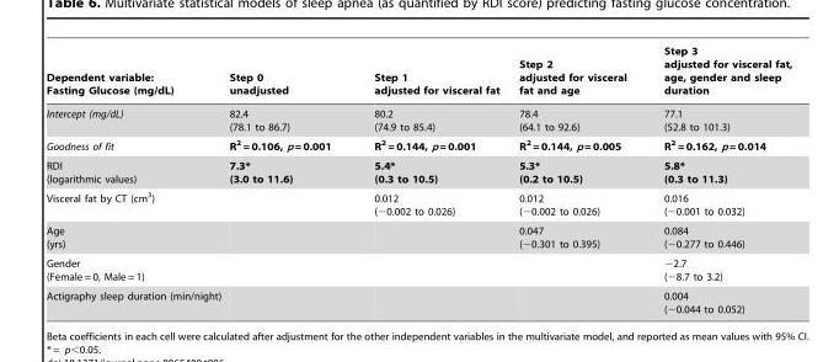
<table><thead><tr><td>Dependent variable: Fasting Glucose (mg/dL)</td><td>Step 0 unadjusted</td><td>Step 1 adjusted for visceral fat</td><td>Step 2 adjusted for visceral fat and age</td><td>Step 3 adjusted for visceral fat, age, gender and sleep duration</td></tr></thead><tbody><tr><td>Intercept (mg/dL)</td><td>82.4 (78.1 to 86.7)</td><td>80.2 (74.9 to 85.4)</td><td>78.4 (64.1 to 92.6)</td><td>77.1 (52.8 to 101.3)</td></tr><tr><td>Goodness of fit</td><td>R<sup>2</sup> = 0.106, p = 0.001</td><td>R<sup>2</sup> = 0.144, p = 0.001</td><td>R<sup>2</sup> = 0.144, p = 0.005</td><td>R<sup>2</sup> = 0.162, p = 0.014</td></tr><tr><td>RDI (logarithmic values)</td><td>7.3* (3.0 to 11.6)</td><td>5.4* (0.3 to 10.5)</td><td>5.3* (0.2 to 10.5)</td><td>5.8* (0.3 to 11.3)</td></tr><tr><td>Visceral fat by CT (cm<sup>3</sup>)</td><td></td><td>0.012 (−0.002 to 0.026)</td><td>0.012 (−0.002 to 0.026)</td><td>0.016 (−0.001 to 0.032)</td></tr><tr><td>Age (yrs)</td><td></td><td></td><td>0.047 (−0.301 to 0.395)</td><td>0.084 (−0.277 to 0.446)</td></tr><tr><td>Gender (Female = 0, Male = 1)</td><td></td><td></td><td></td><td>−2.7 (−8.7 to 3.2)</td></tr><tr><td>Actigraphy sleep duration (min/night)</td><td></td><td></td><td></td><td>0.004 (−0.044 to 0.052)</td></tr></tbody></table>